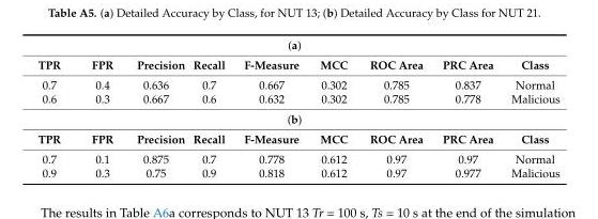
<table><tbody><tr><td colspan="9">(a)</td></tr><tr><td>TPR</td><td>FPR</td><td>Precision</td><td>Recall</td><td>F-Measure</td><td>MCC</td><td>ROC Area</td><td>PRC Area</td><td>Class</td></tr><tr><td>0.7</td><td>0.4</td><td>0.636</td><td>0.7</td><td>0.667</td><td>0.302</td><td>0.785</td><td>0.837</td><td>Normal</td></tr><tr><td>0.6</td><td>0.3</td><td>0.667</td><td>0.6</td><td>0.632</td><td>0.302</td><td>0.785</td><td>0.778</td><td>Malicious</td></tr><tr><td colspan="9">(b)</td></tr><tr><td>TPR</td><td>FPR</td><td>Precision</td><td>Recall</td><td>F-Measure</td><td>MCC</td><td>ROC Area</td><td>PRC Area</td><td>Class</td></tr><tr><td>0.7</td><td>0.1</td><td>0.875</td><td>0.7</td><td>0.778</td><td>0.612</td><td>0.97</td><td>0.97</td><td>Normal</td></tr><tr><td>0.9</td><td>0.3</td><td>0.75</td><td>0.9</td><td>0.818</td><td>0.612</td><td>0.97</td><td>0.977</td><td>Malicious</td></tr></tbody></table>